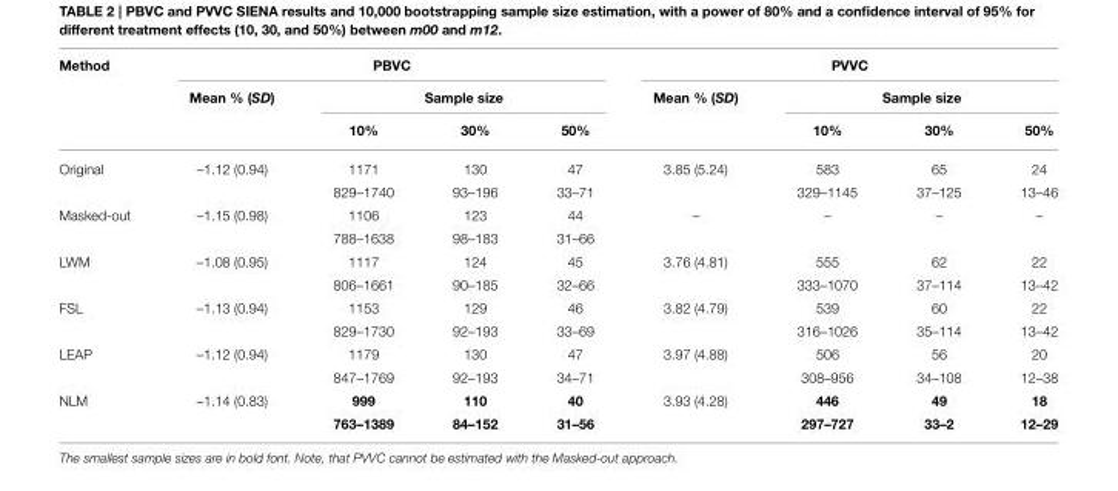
<table><thead><tr><td rowspan="3">Method</td><td colspan="4">PBVC</td><td colspan="4">PVVC</td></tr><tr><td rowspan="2">Mean % (SD)</td><td colspan="3">Sample size</td><td rowspan="2">Mean % (SD)</td><td colspan="3">Sample size</td></tr><tr><td>10%</td><td>30%</td><td>50%</td><td>10%</td><td>30%</td><td>50%</td></tr></thead><tbody><tr><td rowspan="2">Original</td><td>–1.12 (0.94)</td><td>1171</td><td>130</td><td>47</td><td>3.85 (5.24)</td><td>583</td><td>65</td><td>24</td></tr><tr><td></td><td>829–1740</td><td>93–196</td><td>33–71</td><td></td><td>329–1145</td><td>37–125</td><td>13–46</td></tr><tr><td rowspan="2">Masked-out</td><td>–1.15 (0.98)</td><td>1106</td><td>123</td><td>44</td><td>–</td><td>–</td><td>–</td><td>–</td></tr><tr><td></td><td>788–1638</td><td>98–183</td><td>31–66</td><td></td><td></td><td></td><td></td></tr><tr><td rowspan="2">LWM</td><td>–1.08 (0.95)</td><td>1117</td><td>124</td><td>45</td><td>3.76 (4.81)</td><td>555</td><td>62</td><td>22</td></tr><tr><td></td><td>806–1661</td><td>90–185</td><td>32–66</td><td></td><td>333–1070</td><td>37–114</td><td>13–42</td></tr><tr><td rowspan="2">FSL</td><td>–1.13 (0.94)</td><td>1153</td><td>129</td><td>46</td><td>3.82 (4.79)</td><td>539</td><td>60</td><td>22</td></tr><tr><td></td><td>829–1730</td><td>92–193</td><td>33–69</td><td></td><td>316–1026</td><td>35–114</td><td>13–42</td></tr><tr><td rowspan="2">LEAP</td><td>–1.12 (0.94)</td><td>1179</td><td>130</td><td>47</td><td>3.97 (4.88)</td><td>506</td><td>56</td><td>20</td></tr><tr><td></td><td>847–1769</td><td>92–193</td><td>34–71</td><td></td><td>308–956</td><td>34–108</td><td>12–38</td></tr><tr><td rowspan="2">NLM</td><td>–1.14 (0.83)</td><td>999</td><td>110</td><td>40</td><td>3.93 (4.28)</td><td>446</td><td>49</td><td>18</td></tr><tr><td></td><td>763–1389</td><td>84–152</td><td>31–56</td><td></td><td>297–727</td><td>33–2</td><td>12–29</td></tr></tbody></table>